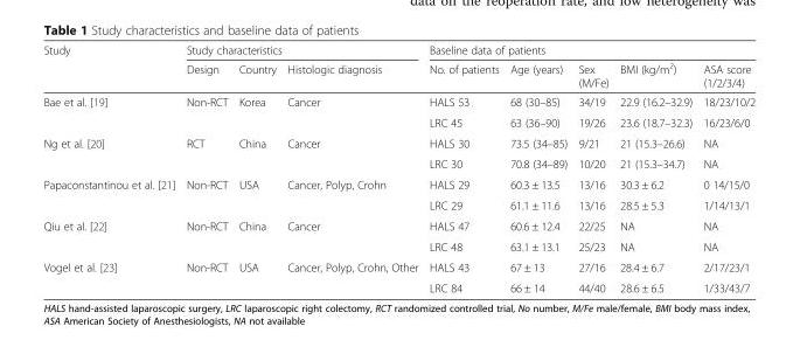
<table><thead><tr><td rowspan="2">Study</td><td colspan="3">Study characteristics</td><td colspan="5">Baseline data of patients</td></tr><tr><td>Design</td><td>Country</td><td>Histologic diagnosis</td><td>No. of patients</td><td>Age (years)</td><td>Sex (M/Fe)</td><td>BMI (kg/m<sup>2</sup>)</td><td>ASA score (1/2/3/4)</td></tr></thead><tbody><tr><td rowspan="2">Bae et al. [19]</td><td rowspan="2">Non-RCT</td><td rowspan="2">Korea</td><td rowspan="2">Cancer</td><td>HALS 53</td><td>68 (30–85)</td><td>34/19</td><td>22.9 (16.2–32.9)</td><td>18/23/10/2</td></tr><tr><td>LRC 45</td><td>63 (36–90)</td><td>19/26</td><td>23.6 (18.7–32.3)</td><td>16/23/6/0</td></tr><tr><td rowspan="2">Ng et al. [20]</td><td rowspan="2">RCT</td><td rowspan="2">China</td><td rowspan="2">Cancer</td><td>HALS 30</td><td>73.5 (34–85)</td><td>9/21</td><td>21 (15.3–26.6)</td><td>NA</td></tr><tr><td>LRC 30</td><td>70.8 (34–89)</td><td>10/20</td><td>21 (15.3–34.7)</td><td>NA</td></tr><tr><td rowspan="2">Papaconstantinou et al. [21]</td><td rowspan="2">Non-RCT</td><td rowspan="2">USA</td><td rowspan="2">Cancer, Polyp, Crohn</td><td>HALS 29</td><td>60.3 ± 13.5</td><td>13/16</td><td>30.3 ± 6.2</td><td>0 14/15/0</td></tr><tr><td>LRC 29</td><td>61.1 ± 11.6</td><td>13/16</td><td>28.5 ± 5.3</td><td>1/14/13/1</td></tr><tr><td rowspan="2">Qiu et al. [22]</td><td rowspan="2">Non-RCT</td><td rowspan="2">China</td><td rowspan="2">Cancer</td><td>HALS 47</td><td>60.6 ± 12.4</td><td>22/25</td><td>NA</td><td>NA</td></tr><tr><td>LRC 48</td><td>63.1 ± 13.1</td><td>25/23</td><td>NA</td><td>NA</td></tr><tr><td rowspan="2">Vogel et al. [23]</td><td rowspan="2">Non-RCT</td><td rowspan="2">USA</td><td rowspan="2">Cancer, Polyp, Crohn, Other</td><td>HALS 43</td><td>67 ± 13</td><td>27/16</td><td>28.4 ± 6.7</td><td>2/17/23/1</td></tr><tr><td>LRC 84</td><td>66 ± 14</td><td>44/40</td><td>28.6 ± 6.5</td><td>1/33/43/7</td></tr></tbody></table>